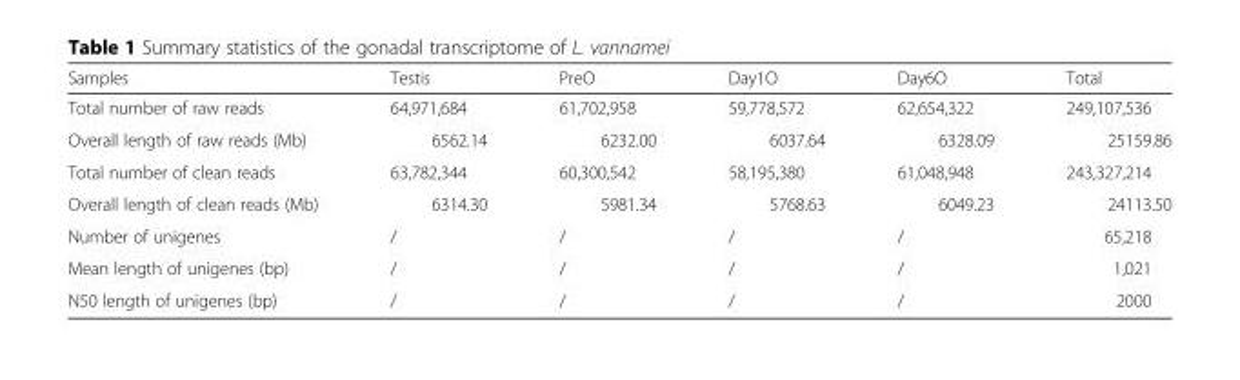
<table><thead><tr><td>Samples</td><td>Testis</td><td>PreO</td><td>Day1O</td><td>Day6O</td><td>Total</td></tr></thead><tbody><tr><td>Total number of raw reads</td><td>64,971,684</td><td>61,702,958</td><td>59,778,572</td><td>62,654,322</td><td>249,107,536</td></tr><tr><td>Overall length of raw reads (Mb)</td><td>6562.14</td><td>6232.00</td><td>6037.64</td><td>6328.09</td><td>25159.86</td></tr><tr><td>Total number of clean reads</td><td>63,782,344</td><td>60,300,542</td><td>58,195,380</td><td>61,048,948</td><td>243,327,214</td></tr><tr><td>Overall length of clean reads (Mb)</td><td>6314.30</td><td>5981.34</td><td>5768.63</td><td>6049.23</td><td>24113.50</td></tr><tr><td>Number of unigenes</td><td>/</td><td>/</td><td>/</td><td>/</td><td>65,218</td></tr><tr><td>Mean length of unigenes (bp)</td><td>/</td><td>/</td><td>/</td><td>/</td><td>1,021</td></tr><tr><td>N50 length of unigenes (bp)</td><td>/</td><td>/</td><td>/</td><td>/</td><td>2000</td></tr></tbody></table>